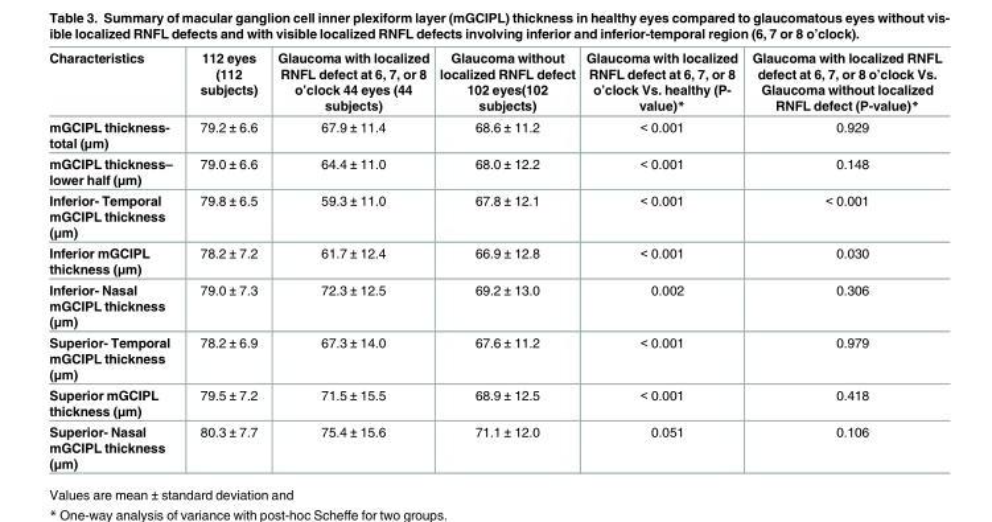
<table><thead><tr><td>Characteristics</td><td>112 eyes (112 subjects)</td><td>Glaucoma with localized RNFL defect at 6, 7, or 8 o’clock 44 eyes (44 subjects)</td><td>Glaucoma without localized RNFL defect 102 eyes(102 subjects)</td><td>Glaucoma with localized RNFL defect at 6, 7, or 8 o’clock Vs. healthy (P- value)*</td><td>Glaucoma with localized RNFL defect at 6, 7, or 8 o’clock Vs. Glaucoma without localized RNFL defect (P-value)*</td></tr></thead><tbody><tr><td>mGCIPL thickness- total (μm)</td><td>79.2 ± 6.6</td><td>67.9 ± 11.4</td><td>68.6 ± 11.2</td><td>&lt; 0.001</td><td>0.929</td></tr><tr><td>mGCIPL thickness– lower half (μm)</td><td>79.0 ± 6.6</td><td>64.4 ± 11.0</td><td>68.0 ± 12.2</td><td>&lt; 0.001</td><td>0.148</td></tr><tr><td>Inferior- Temporal mGCIPL thickness (μm)</td><td>79.8 ± 6.5</td><td>59.3 ± 11.0</td><td>67.8 ± 12.1</td><td>&lt; 0.001</td><td>&lt; 0.001</td></tr><tr><td>Inferior mGCIPL thickness (μm)</td><td>78.2 ± 7.2</td><td>61.7 ± 12.4</td><td>66.9 ± 12.8</td><td>&lt; 0.001</td><td>0.030</td></tr><tr><td>Inferior- Nasal mGCIPL thickness (μm)</td><td>79.0 ± 7.3</td><td>72.3 ± 12.5</td><td>69.2 ± 13.0</td><td>0.002</td><td>0.306</td></tr><tr><td>Superior- Temporal mGCIPL thickness (μm)</td><td>78.2 ± 6.9</td><td>67.3 ± 14.0</td><td>67.6 ± 11.2</td><td>&lt; 0.001</td><td>0.979</td></tr><tr><td>Superior mGCIPL thickness (μm)</td><td>79.5 ± 7.2</td><td>71.5 ± 15.5</td><td>68.9 ± 12.5</td><td>&lt; 0.001</td><td>0.418</td></tr><tr><td>Superior- Nasal mGCIPL thickness (μm)</td><td>80.3 ± 7.7</td><td>75.4 ± 15.6</td><td>71.1 ± 12.0</td><td>0.051</td><td>0.106</td></tr></tbody></table>